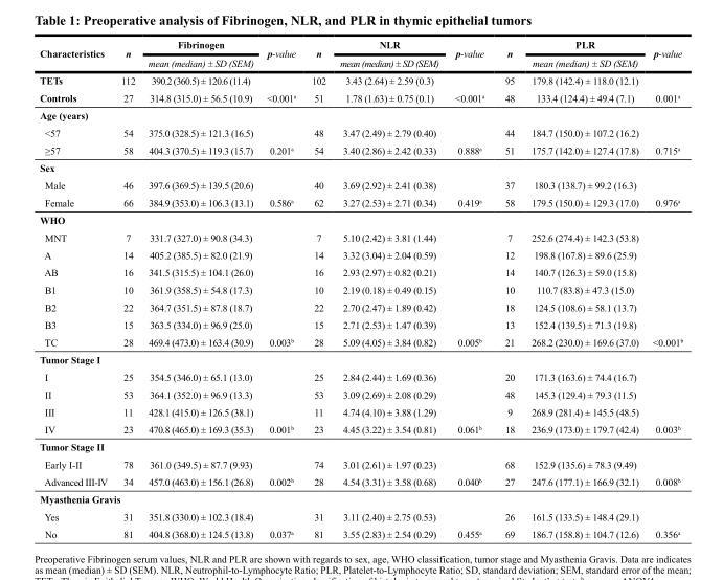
<table><thead><tr><td rowspan="2">Characteristics</td><td rowspan="2">n</td><td rowspan="2">Fibrinogen mean (median) ± SD (SEM)</td><td rowspan="2">p-value</td><td rowspan="2">n</td><td rowspan="2">NLR mean (median) ± SD (SEM)</td><td rowspan="2">p-value</td><td rowspan="2">n</td><td rowspan="2">PLR mean (median) ± SD (SEM)</td><td rowspan="2">p-value</td></tr><tr></tr></thead><tbody><tr><td>TETs</td><td>112</td><td>390.2 (360.5) ± 120.6 (11.4)</td><td></td><td>102</td><td>3.43 (2.64) ± 2.59 (0.3)</td><td></td><td>95</td><td>179.8 (142.4) ± 118.0 (12.1)</td><td></td></tr><tr><td>Controls</td><td>27</td><td>314.8 (315.0) ± 56.5 (10.9)</td><td>&lt;0.001<sup>a</sup></td><td>51</td><td>1.78 (1.63) ± 0.75 (0.1)</td><td>&lt;0.001<sup>a</sup></td><td>48</td><td>133.4 (124.4) ± 49.4 (7.1)</td><td>0.001<sup>a</sup></td></tr><tr><td colspan="10">Age (years)</td></tr><tr><td>&lt;57</td><td>54</td><td>375.0 (328.5) ± 121.3 (16.5)</td><td></td><td>48</td><td>3.47 (2.49) ± 2.79 (0.40)</td><td></td><td>44</td><td>184.7 (150.0) ± 107.2 (16.2)</td><td></td></tr><tr><td>≥57</td><td>58</td><td>404.3 (370.5) ± 119.3 (15.7)</td><td>0.201<sup>a</sup></td><td>54</td><td>3.40 (2.86) ± 2.42 (0.33)</td><td>0.888<sup>a</sup></td><td>51</td><td>175.7 (142.0) ± 127.4 (17.8)</td><td>0.715<sup>a</sup></td></tr><tr><td colspan="10">Sex</td></tr><tr><td>Male</td><td>46</td><td>397.6 (369.5) ± 139.5 (20.6)</td><td></td><td>40</td><td>3.69 (2.92) ± 2.41 (0.38)</td><td></td><td>37</td><td>180.3 (138.7) ± 99.2 (16.3)</td><td></td></tr><tr><td>Female</td><td>66</td><td>384.9 (353.0) ± 106.3 (13.1)</td><td>0.586<sup>a</sup></td><td>62</td><td>3.27 (2.53) ± 2.71 (0.34)</td><td>0.419<sup>a</sup></td><td>58</td><td>179.5 (150.0) ± 129.3 (17.0)</td><td>0.976<sup>a</sup></td></tr><tr><td colspan="10">WHO</td></tr><tr><td>MNT</td><td>7</td><td>331.7 (327.0) ± 90.8 (34.3)</td><td></td><td>7</td><td>5.10 (2.42) ± 3.81 (1.44)</td><td></td><td>7</td><td>252.6 (274.4) ± 142.3 (53.8)</td><td></td></tr><tr><td>A</td><td>14</td><td>405.2 (385.5) ± 82.0 (21.9)</td><td></td><td>14</td><td>3.32 (3.04) ± 2.04 (0.59)</td><td></td><td>12</td><td>198.8 (167.8) ± 89.6 (25.9)</td><td></td></tr><tr><td>AB</td><td>16</td><td>341.5 (315.5) ± 104.1 (26.0)</td><td></td><td>16</td><td>2.93 (2.97) ± 0.82 (0.21)</td><td></td><td>14</td><td>140.7 (126.3) ± 59.0 (15.8)</td><td></td></tr><tr><td>B1</td><td>10</td><td>361.9 (358.5) ± 54.8 (17.3)</td><td></td><td>10</td><td>2.19 (0.18) ± 0.49 (0.15)</td><td></td><td>10</td><td>110.7 (83.8) ± 47.3 (15.0)</td><td></td></tr><tr><td>B2</td><td>22</td><td>364.7 (351.5) ± 87.8 (18.7)</td><td></td><td>22</td><td>2.70 (2.47) ± 1.89 (0.42)</td><td></td><td>18</td><td>124.5 (108.6) ± 58.1 (13.7)</td><td></td></tr><tr><td>B3</td><td>15</td><td>363.5 (334.0) ± 96.9 (25.0)</td><td></td><td>15</td><td>2.71 (2.53) ± 1.47 (0.39)</td><td></td><td>13</td><td>152.4 (139.5) ± 71.3 (19.8)</td><td></td></tr><tr><td>TC</td><td>28</td><td>469.4 (473.0) ± 163.4 (30.9)</td><td>0.003<sup>b</sup></td><td>28</td><td>5.09 (4.05) ± 3.84 (0.82)</td><td>0.005<sup>b</sup></td><td>21</td><td>268.2 (230.0) ± 169.6 (37.0)</td><td>&lt;0.001<sup>b</sup></td></tr><tr><td colspan="10">Tumor Stage I</td></tr><tr><td>I</td><td>25</td><td>354.5 (346.0) ± 65.1 (13.0)</td><td></td><td>25</td><td>2.84 (2.44) ± 1.69 (0.36)</td><td></td><td>20</td><td>171.3 (163.6) ± 74.4 (16.7)</td><td></td></tr><tr><td>II</td><td>53</td><td>364.1 (352.0) ± 96.9 (13.3)</td><td></td><td>53</td><td>3.09 (2.69) ± 2.08 (0.29)</td><td></td><td>48</td><td>145.3 (129.4) ± 79.3 (11.5)</td><td></td></tr><tr><td>III</td><td>11</td><td>428.1 (415.0) ± 126.5 (38.1)</td><td></td><td>11</td><td>4.74 (4.10) ± 3.88 (1.29)</td><td></td><td>9</td><td>268.9 (281.4) ± 145.5 (48.5)</td><td></td></tr><tr><td>IV</td><td>23</td><td>470.8 (465.0) ± 169.3 (35.3)</td><td>0.001<sup>b</sup></td><td>23</td><td>4.45 (3.22) ± 3.54 (0.81)</td><td>0.061<sup>b</sup></td><td>18</td><td>236.9 (173.0) ± 179.7 (42.4)</td><td>0.003<sup>b</sup></td></tr><tr><td colspan="10">Tumor Stage II</td></tr><tr><td>Early I-II</td><td>78</td><td>361.0 (349.5) ± 87.7 (9.93)</td><td></td><td>74</td><td>3.01 (2.61) ± 1.97 (0.23)</td><td></td><td>68</td><td>152.9 (135.6) ± 78.3 (9.49)</td><td></td></tr><tr><td>Advanced III-IV</td><td>34</td><td>457.0 (463.0) ± 156.1 (26.8)</td><td>0.002<sup>b</sup></td><td>28</td><td>4.54 (3.31) ± 3.58 (0.68)</td><td>0.040<sup>b</sup></td><td>27</td><td>247.6 (177.1) ± 166.9 (32.1)</td><td>0.008<sup>b</sup></td></tr><tr><td colspan="10">Myasthenia Gravis</td></tr><tr><td>Yes</td><td>31</td><td>351.8 (330.0) ± 102.3 (18.4)</td><td></td><td>31</td><td>3.11 (2.40) ± 2.75 (0.53)</td><td></td><td>26</td><td>161.5 (133.5) ± 148.4 (29.1)</td><td></td></tr><tr><td>No</td><td>81</td><td>404.8 (368.0) ± 124.5 (13.8)</td><td>0.037<sup>a</sup></td><td>81</td><td>3.55 (2.83) ± 2.54 (0.29)</td><td>0.455<sup>a</sup></td><td>69</td><td>186.7 (158.8) ± 104.7 (12.6)</td><td>0.356<sup>a</sup></td></tr></tbody></table>